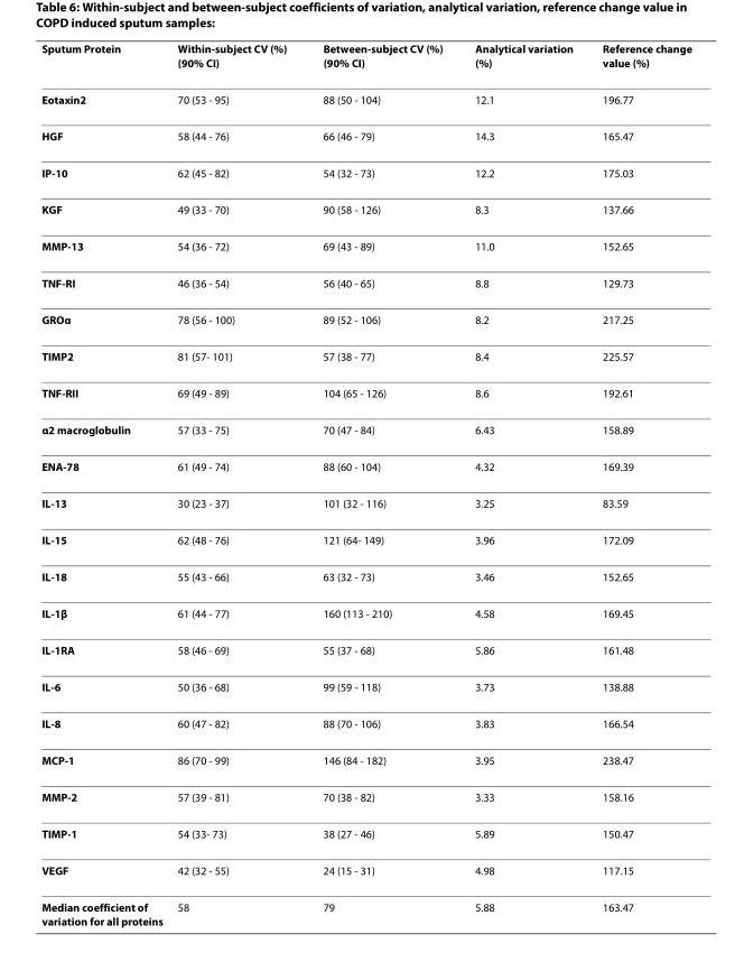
<table><thead><tr><td>Sputum Protein</td><td>Within-subject CV (%) (90% CI)</td><td>Between-subject CV (%) (90% CI)</td><td>Analytical variation (%)</td><td>Reference change value (%)</td></tr></thead><tbody><tr><td>Eotaxin2</td><td>70 (53 - 95)</td><td>88 (50 - 104)</td><td>12.1</td><td>196.77</td></tr><tr><td>HGF</td><td>58 (44 - 76)</td><td>66 (46 - 79)</td><td>14.3</td><td>165.47</td></tr><tr><td>IP-10</td><td>62 (45 - 82)</td><td>54 (32 - 73)</td><td>12.2</td><td>175.03</td></tr><tr><td>KGF</td><td>49 (33 - 70)</td><td>90 (58 - 126)</td><td>8.3</td><td>137.66</td></tr><tr><td>MMP-13</td><td>54 (36 - 72)</td><td>69 (43 - 89)</td><td>11.0</td><td>152.65</td></tr><tr><td>TNF-RI</td><td>46 (36 - 54)</td><td>56 (40 - 65)</td><td>8.8</td><td>129.73</td></tr><tr><td>GROα</td><td>78 (56 - 100)</td><td>89 (52 - 106)</td><td>8.2</td><td>217.25</td></tr><tr><td>TIMP2</td><td>81 (57- 101)</td><td>57 (38 - 77)</td><td>8.4</td><td>225.57</td></tr><tr><td>TNF-RII</td><td>69 (49 - 89)</td><td>104 (65 - 126)</td><td>8.6</td><td>192.61</td></tr><tr><td>α2 macroglobulin</td><td>57 (33 - 75)</td><td>70 (47 - 84)</td><td>6.43</td><td>158.89</td></tr><tr><td>ENA-78</td><td>61 (49 - 74)</td><td>88 (60 - 104)</td><td>4.32</td><td>169.39</td></tr><tr><td>IL-13</td><td>30 (23 - 37)</td><td>101 (32 - 116)</td><td>3.25</td><td>83.59</td></tr><tr><td>IL-15</td><td>62 (48 - 76)</td><td>121 (64- 149)</td><td>3.96</td><td>172.09</td></tr><tr><td>IL-18</td><td>55 (43 - 66)</td><td>63 (32 - 73)</td><td>3.46</td><td>152.65</td></tr><tr><td>IL-1β</td><td>61 (44 - 77)</td><td>160 (113 - 210)</td><td>4.58</td><td>169.45</td></tr><tr><td>IL-1RA</td><td>58 (46 - 69)</td><td>55 (37 - 68)</td><td>5.86</td><td>161.48</td></tr><tr><td>IL-6</td><td>50 (36 - 68)</td><td>99 (59 - 118)</td><td>3.73</td><td>138.88</td></tr><tr><td>IL-8</td><td>60 (47 - 82)</td><td>88 (70 - 106)</td><td>3.83</td><td>166.54</td></tr><tr><td>MCP-1</td><td>86 (70 - 99)</td><td>146 (84 - 182)</td><td>3.95</td><td>238.47</td></tr><tr><td>MMP-2</td><td>57 (39 - 81)</td><td>70 (38 - 82)</td><td>3.33</td><td>158.16</td></tr><tr><td>TIMP-1</td><td>54 (33- 73)</td><td>38 (27 - 46)</td><td>5.89</td><td>150.47</td></tr><tr><td>VEGF</td><td>42 (32 - 55)</td><td>24 (15 - 31)</td><td>4.98</td><td>117.15</td></tr><tr><td>Median coefficient of variation for all proteins</td><td>58</td><td>79</td><td>5.88</td><td>163.47</td></tr></tbody></table>